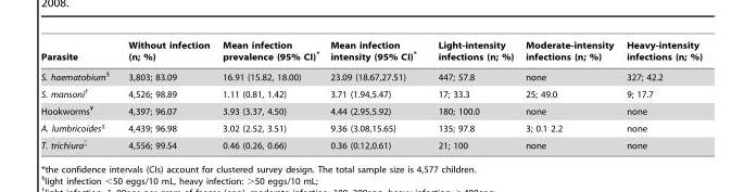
<table><thead><tr><td>Parasite</td><td>Without infection (n; %)</td><td>Mean infection prevalence (95% CI)*</td><td>Mean infection intensity (95% CI)*</td><td>Light-intensity infections (n; %)</td><td>Moderate-intensity infections (n; %)</td><td>Heavy-intensity infections (n; %)</td></tr></thead><tbody><tr><td>S. haematobium§</td><td>3,803; 83.09</td><td>16.91 (15.82, 18.00)</td><td>23.09 (18.67,27.51)</td><td>447; 57.8</td><td>none</td><td>327; 42.2</td></tr><tr><td>S. mansoni†</td><td>4,526; 98.89</td><td>1.11 (0.81, 1.42)</td><td>3.71 (1.94,5.47)</td><td>17; 33.3</td><td>25; 49.0</td><td>9; 17.7</td></tr><tr><td>Hookworms¥</td><td>4,397; 96.07</td><td>3.93 (3.37, 4.50)</td><td>4.44 (2.95,5.92)</td><td>180; 100.0</td><td>none</td><td>none</td></tr><tr><td>A. lumbricoidesχ</td><td>4,439; 96.98</td><td>3.02 (2.52, 3.51)</td><td>9.36 (3.08,15.65)</td><td>135; 97.8</td><td>3; 0.1 2.2</td><td>none</td></tr><tr><td>T. trichiuraζ</td><td>4,556; 99.54</td><td>0.46 (0.26, 0.66)</td><td>0.36 (0.12,0.61)</td><td>21; 100</td><td>none</td><td>none</td></tr></tbody></table>